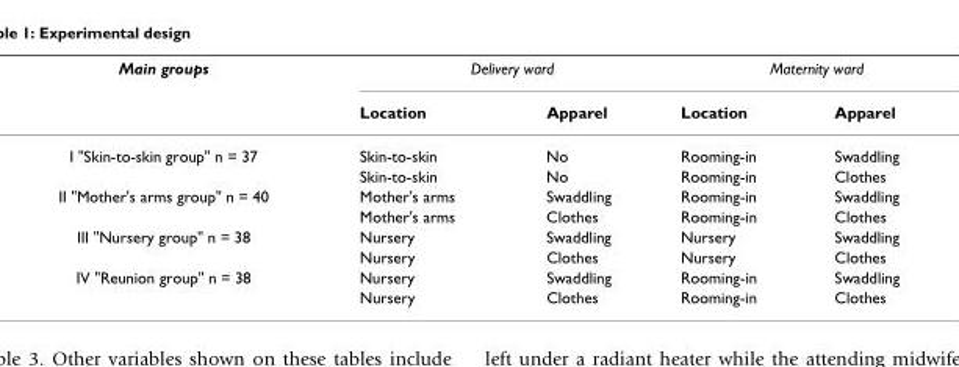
<table><thead><tr><td rowspan="2">Main groups</td><td colspan="2">Delivery ward</td><td colspan="2">Maternity ward</td></tr><tr><td>Location</td><td>Apparel</td><td>Location</td><td>Apparel</td></tr></thead><tbody><tr><td rowspan="2">I &quot;Skin-to-skin group&quot; n = 37</td><td>Skin-to-skin</td><td>No</td><td>Rooming-in</td><td>Swaddling</td></tr><tr><td>Skin-to-skin</td><td>No</td><td>Rooming-in</td><td>Clothes</td></tr><tr><td rowspan="2">II &quot;Mother&#x27;s arms group&quot; n = 40</td><td>Mother&#x27;s arms</td><td>Swaddling</td><td>Rooming-in</td><td>Swaddling</td></tr><tr><td>Mother&#x27;s arms</td><td>Clothes</td><td>Rooming-in</td><td>Clothes</td></tr><tr><td rowspan="2">III &quot;Nursery group&quot; n = 38</td><td>Nursery</td><td>Swaddling</td><td>Nursery</td><td>Swaddling</td></tr><tr><td>Nursery</td><td>Clothes</td><td>Nursery</td><td>Clothes</td></tr><tr><td rowspan="2">IV &quot;Reunion group&quot; n = 38</td><td>Nursery</td><td>Swaddling</td><td>Rooming-in</td><td>Swaddling</td></tr><tr><td>Nursery</td><td>Clothes</td><td>Rooming-in</td><td>Clothes</td></tr></tbody></table>